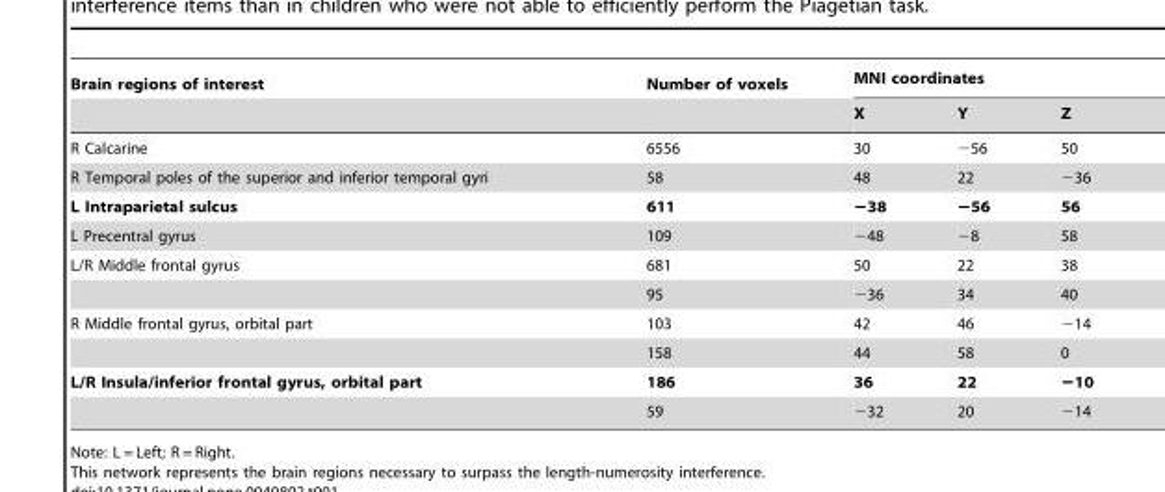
<table><thead><tr><td rowspan="2">Brain regions of interest</td><td rowspan="2">Number of voxels</td><td colspan="3">MNI coordinates</td></tr><tr><td>X</td><td>Y</td><td>Z</td></tr></thead><tbody><tr><td>R Calcarine</td><td>6556</td><td>30</td><td>−56</td><td>50</td></tr><tr><td>R Temporal poles of the superior and inferior temporal gyri</td><td>58</td><td>48</td><td>22</td><td>−36</td></tr><tr><td>L Intraparietal sulcus</td><td>611</td><td>−38</td><td>−56</td><td>56</td></tr><tr><td>L Precentral gyrus</td><td>109</td><td>−48</td><td>−8</td><td>58</td></tr><tr><td rowspan="2">L/R Middle frontal gyrus</td><td>681</td><td>50</td><td>22</td><td>38</td></tr><tr><td>95</td><td>−36</td><td>34</td><td>40</td></tr><tr><td rowspan="2">R Middle frontal gyrus, orbital part</td><td>103</td><td>42</td><td>46</td><td>−14</td></tr><tr><td>158</td><td>44</td><td>58</td><td>0</td></tr><tr><td rowspan="2">L/R Insula/inferior frontal gyrus, orbital part</td><td>186</td><td>36</td><td>22</td><td>−10</td></tr><tr><td>59</td><td>−32</td><td>20</td><td>−14</td></tr></tbody></table>